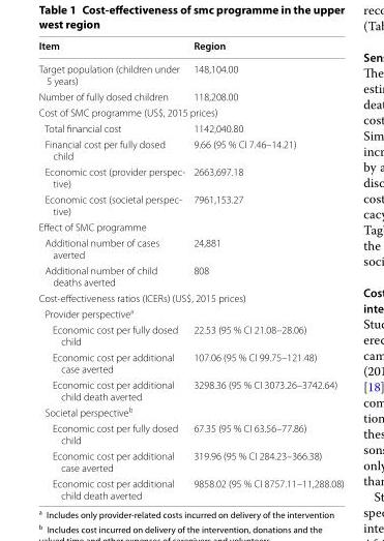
<table><thead><tr><td>Item</td><td>Region</td></tr></thead><tbody><tr><td>Target population (children under 5 years)</td><td>148,104.00</td></tr><tr><td>Number of fully dosed children</td><td>118,208.00</td></tr><tr><td colspan="2">Cost of SMC programme (US$, 2015 prices)</td></tr><tr><td>Total financial cost</td><td>1142,040.80</td></tr><tr><td>Financial cost per fully dosed child</td><td>9.66 (95 % CI 7.46–14.21)</td></tr><tr><td>Economic cost (provider perspec- tive)</td><td>2663,697.18</td></tr><tr><td>Economic cost (societal perspec- tive)</td><td>7961,153.27</td></tr><tr><td colspan="2">Effect of SMC programme</td></tr><tr><td>Additional number of cases averted</td><td>24,881</td></tr><tr><td>Additional number of child deaths averted</td><td>808</td></tr><tr><td colspan="2">Cost-effectiveness ratios (ICERs) (US$, 2015 prices)</td></tr><tr><td colspan="2">Provider perspective<sup>a</sup></td></tr><tr><td>Economic cost per fully dosed child</td><td>22.53 (95 % CI 21.08–28.06)</td></tr><tr><td>Economic cost per additional case averted</td><td>107.06 (95 % CI 99.75–121.48)</td></tr><tr><td>Economic cost per additional child death averted</td><td>3298.36 (95 % CI 3073.26–3742.64)</td></tr><tr><td colspan="2">Societal perspective<sup>b</sup></td></tr><tr><td>Economic cost per fully dosed child</td><td>67.35 (95 % CI 63.56–77.86)</td></tr><tr><td>Economic cost per additional case averted</td><td>319.96 (95 % CI 284.23–366.38)</td></tr><tr><td>Economic cost per additional child death averted</td><td>9858.02 (95 % CI 8757.11–11,288.08)</td></tr></tbody></table>